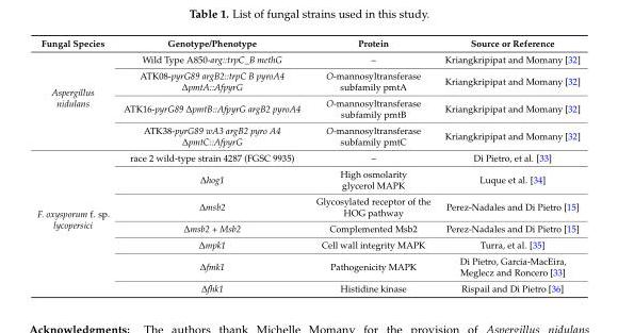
<table><thead><tr><td>Fungal Species</td><td>Genotype/Phenotype</td><td>Protein</td><td>Source or Reference</td></tr></thead><tbody><tr><td rowspan="4">Aspergillus nidulans</td><td>Wild Type A850-arg::trpC_B methG</td><td>–</td><td>Kriangkripipat and Momany [32]</td></tr><tr><td>ATK08-pyrG89 argB2::trpC B pyroA4 ∆pmtA::AfpyrG</td><td>O-mannosyltransferase subfamily pmtA</td><td>Kriangkripipat and Momany [32]</td></tr><tr><td>ATK16-pyrG89 ∆pmtB::AfpyrG argB2 pyroA4</td><td>O-mannosyltransferase subfamily pmtB</td><td>Kriangkripipat and Momany [32]</td></tr><tr><td>ATK38-pyrG89 wA3 argB2 pyro A4 ∆pmtC::AfpyrG</td><td>O-mannosyltransferase subfamily pmtC</td><td>Kriangkripipat and Momany [32]</td></tr><tr><td rowspan="7">F. oxysporum f. sp. lycopersici</td><td>race 2 wild-type strain 4287 (FGSC 9935)</td><td>–</td><td>Di Pietro, et al. [33]</td></tr><tr><td>∆hog1</td><td>High osmolarity glycerol MAPK</td><td>Luque et al. [34]</td></tr><tr><td>∆msb2</td><td>Glycosylated receptor of the HOG pathway</td><td>Perez-Nadales and Di Pietro [15]</td></tr><tr><td>∆msb2 + Msb2</td><td>Complemented Msb2</td><td>Perez-Nadales and Di Pietro [15]</td></tr><tr><td>∆mpk1</td><td>Cell wall integrity MAPK</td><td>Turra, et al. [35]</td></tr><tr><td>∆fmk1</td><td>Pathogenicity MAPK</td><td>Di Pietro, Garcia-MacEira, Meglecz and Roncero [33]</td></tr><tr><td>∆fhk1</td><td>Histidine kinase</td><td>Rispail and Di Pietro [36]</td></tr></tbody></table>